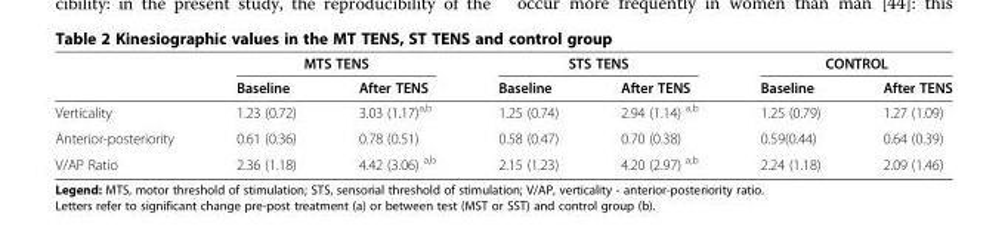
<table><thead><tr><td rowspan="2"></td><td colspan="2">MTS TENS</td><td colspan="2">STS TENS</td><td colspan="2">CONTROL</td></tr><tr><td>Baseline</td><td>After TENS</td><td>Baseline</td><td>After TENS</td><td>Baseline</td><td>After TENS</td></tr></thead><tbody><tr><td>Verticality</td><td>1.23 (0.72)</td><td>3.03 (1.17)<sup>a,b</sup></td><td>1.25 (0.74)</td><td>2.94 (1.14) <sup>a,b</sup></td><td>1.25 (0.79)</td><td>1.27 (1.09)</td></tr><tr><td>Anterior-posteriority</td><td>0.61 (0.36)</td><td>0.78 (0.51)</td><td>0.58 (0.47)</td><td>0.70 (0.38)</td><td>0.59(0.44)</td><td>0.64 (0.39)</td></tr><tr><td>V/AP Ratio</td><td>2.36 (1.18)</td><td>4.42 (3.06) <sup>a,b</sup></td><td>2.15 (1.23)</td><td>4.20 (2.97) <sup>a,b</sup></td><td>2.24 (1.18)</td><td>2.09 (1.46)</td></tr></tbody></table>